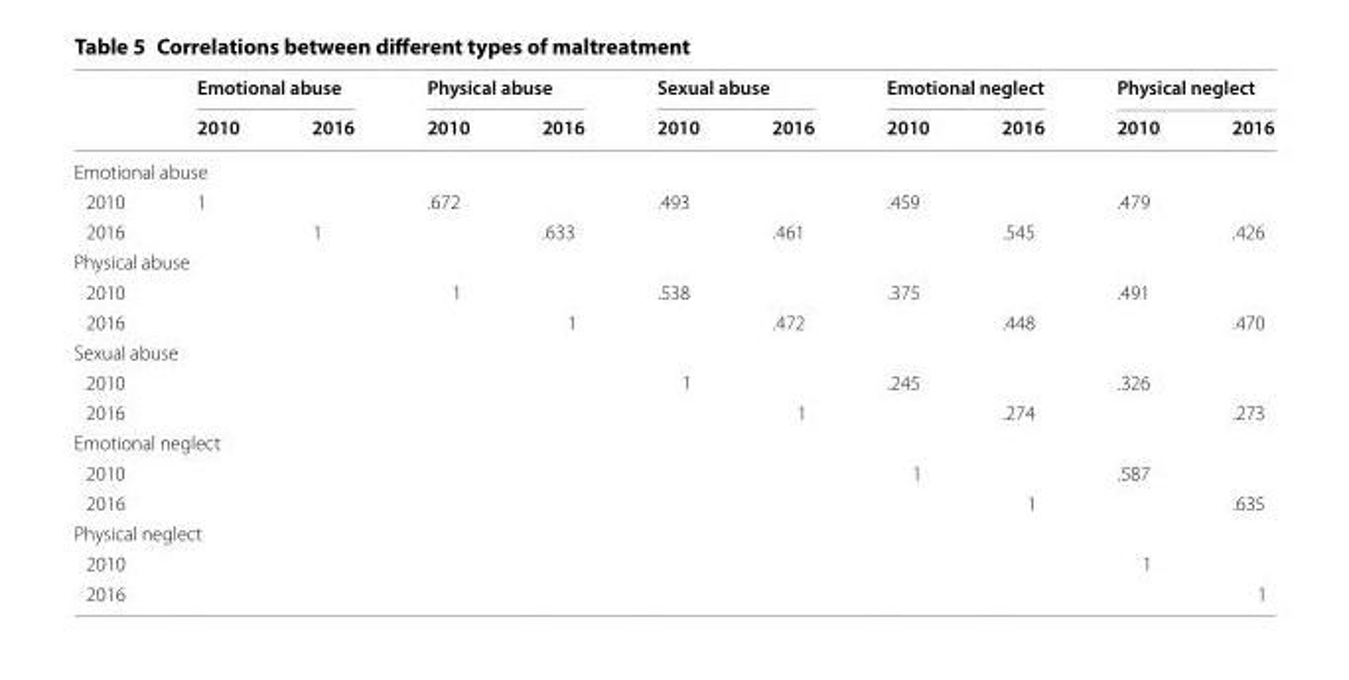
<table><thead><tr><td rowspan="2"></td><td colspan="2">Emotional abuse</td><td colspan="2">Physical abuse</td><td colspan="2">Sexual abuse</td><td colspan="2">Emotional neglect</td><td colspan="2">Physical neglect</td></tr><tr><td>2010</td><td>2016</td><td>2010</td><td>2016</td><td>2010</td><td>2016</td><td>2010</td><td>2016</td><td>2010</td><td>2016</td></tr></thead><tbody><tr><td colspan="11">Emotional abuse</td></tr><tr><td>2010</td><td>1</td><td></td><td>.672</td><td></td><td>.493</td><td></td><td>.459</td><td></td><td>.479</td><td></td></tr><tr><td>2016</td><td></td><td>1</td><td></td><td>.633</td><td></td><td>.461</td><td></td><td>.545</td><td></td><td>.426</td></tr><tr><td colspan="11">Physical abuse</td></tr><tr><td>2010</td><td></td><td></td><td>1</td><td></td><td>.538</td><td></td><td>.375</td><td></td><td>.491</td><td></td></tr><tr><td>2016</td><td></td><td></td><td></td><td>1</td><td></td><td>.472</td><td></td><td>.448</td><td></td><td>.470</td></tr><tr><td colspan="11">Sexual abuse</td></tr><tr><td>2010</td><td></td><td></td><td></td><td></td><td>1</td><td></td><td>.245</td><td></td><td>.326</td><td></td></tr><tr><td>2016</td><td></td><td></td><td></td><td></td><td></td><td>1</td><td></td><td>.274</td><td></td><td>.273</td></tr><tr><td colspan="11">Emotional neglect</td></tr><tr><td>2010</td><td></td><td></td><td></td><td></td><td></td><td></td><td>1</td><td></td><td>.587</td><td></td></tr><tr><td>2016</td><td></td><td></td><td></td><td></td><td></td><td></td><td></td><td>1</td><td></td><td>.635</td></tr><tr><td colspan="11">Physical neglect</td></tr><tr><td>2010</td><td></td><td></td><td></td><td></td><td></td><td></td><td></td><td></td><td>1</td><td></td></tr><tr><td>2016</td><td></td><td></td><td></td><td></td><td></td><td></td><td></td><td></td><td></td><td>1</td></tr></tbody></table>